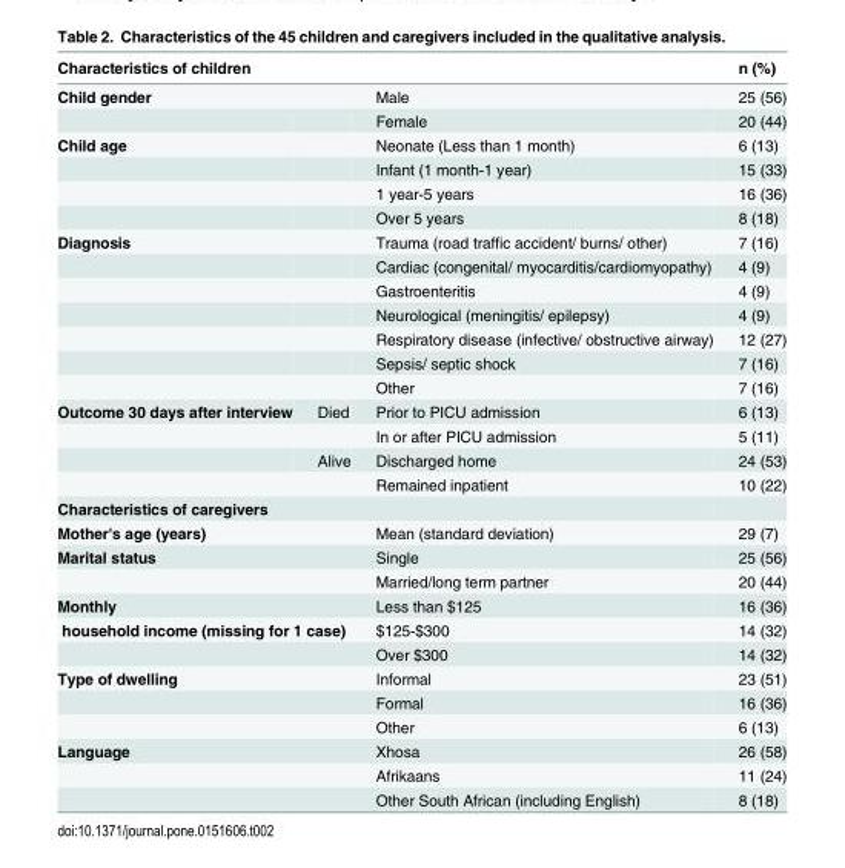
<table><thead><tr><td rowspan="2" colspan="2">Characteristics of children Child gender</td><td rowspan="3">Male Female</td><td rowspan="3">n (%) 25 (56) 20 (44)</td></tr><tr></tr><tr><td></td><td></td></tr></thead><tbody><tr><td rowspan="4">Child age</td><td></td><td>Neonate (Less than 1 month)</td><td>6 (13)</td></tr><tr><td></td><td>Infant (1 month-1 year)</td><td>15 (33)</td></tr><tr><td></td><td>1 year-5 years</td><td>16 (36)</td></tr><tr><td></td><td>Over 5 years</td><td>8 (18)</td></tr><tr><td rowspan="7">Diagnosis</td><td></td><td>Trauma (road traffic accident/ burns/ other)</td><td>7 (16)</td></tr><tr><td></td><td>Cardiac (congenital/ myocarditis/cardiomyopathy)</td><td>4 (9)</td></tr><tr><td></td><td>Gastroenteritis</td><td>4 (9)</td></tr><tr><td></td><td>Neurological (meningitis/ epilepsy)</td><td>4 (9)</td></tr><tr><td></td><td>Respiratory disease (infective/ obstructive airway)</td><td>12 (27)</td></tr><tr><td></td><td>Sepsis/ septic shock</td><td>7 (16)</td></tr><tr><td></td><td>Other</td><td>7 (16)</td></tr><tr><td rowspan="4">Outcome 30 days after interview</td><td>Died</td><td>Prior to PICU admission</td><td>6 (13)</td></tr><tr><td></td><td>In or after PICU admission</td><td>5 (11)</td></tr><tr><td>Alive</td><td>Discharged home</td><td>24 (53)</td></tr><tr><td></td><td>Remained inpatient</td><td>10 (22)</td></tr><tr><td colspan="4">Characteristics of caregivers</td></tr><tr><td colspan="2">Mother&#x27;s age (years)</td><td>Mean (standard deviation)</td><td>29 (7)</td></tr><tr><td rowspan="2" colspan="2">Marital status</td><td>Single</td><td>25 (56)</td></tr><tr><td>Married/long term partner</td><td>20 (44)</td></tr><tr><td colspan="2">Monthly</td><td>Less than $125</td><td>16 (36)</td></tr><tr><td rowspan="2" colspan="2">household income (missing for 1 case)</td><td>$125-$300</td><td>14 (32)</td></tr><tr><td>Over $300</td><td>14 (32)</td></tr><tr><td rowspan="3" colspan="2">Type of dwelling</td><td>Informal</td><td>23 (51)</td></tr><tr><td>Formal</td><td>16 (36)</td></tr><tr><td>Other</td><td>6 (13)</td></tr><tr><td rowspan="3" colspan="2">Language</td><td>Xhosa</td><td>26 (58)</td></tr><tr><td>Afrikaans</td><td>11 (24)</td></tr><tr><td>Other South African (including English)</td><td>8 (18)</td></tr></tbody></table>